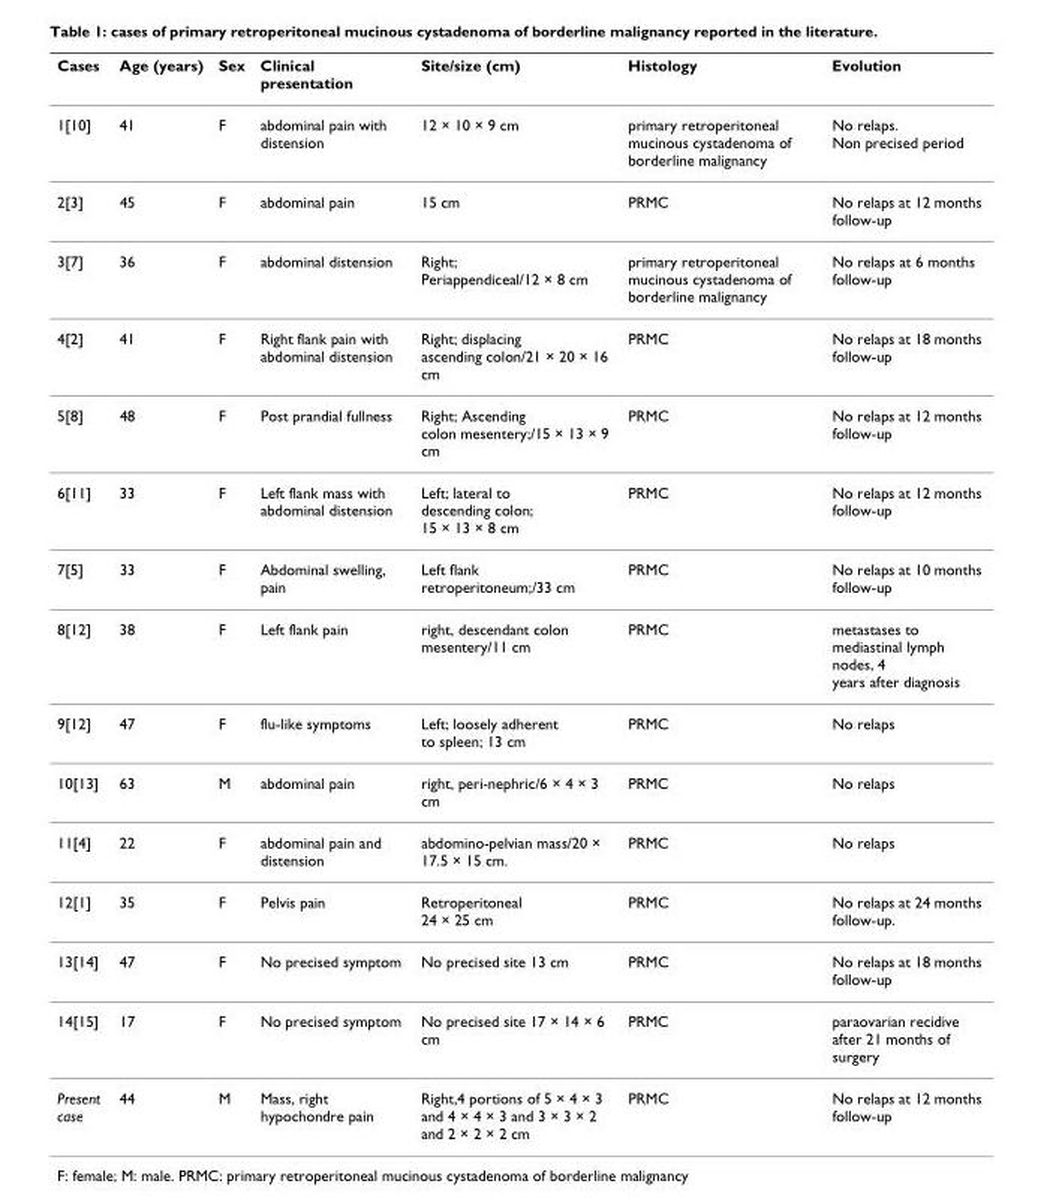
<table><thead><tr><td>Cases</td><td>Age (years)</td><td>Sex</td><td>Clinical presentation</td><td>Site/size (cm)</td><td>Histology</td><td>Evolution</td></tr></thead><tbody><tr><td>1[10]</td><td>41</td><td>F</td><td>abdominal pain with distension</td><td>12 × 10 × 9 cm</td><td>primary retroperitoneal mucinous cystadenoma of borderline malignancy</td><td>No relaps. Non precised period</td></tr><tr><td>2[3]</td><td>45</td><td>F</td><td>abdominal pain</td><td>15 cm</td><td>PRMC</td><td>No relaps at 12 months follow-up</td></tr><tr><td>3[7]</td><td>36</td><td>F</td><td>abdominal distension</td><td>Right; Periappendiceal/12 × 8 cm</td><td>primary retroperitoneal mucinous cystadenoma of borderline malignancy</td><td>No relaps at 6 months follow-up</td></tr><tr><td>4[2]</td><td>41</td><td>F</td><td>Right flank pain with abdominal distension</td><td>Right; displacing ascending colon/21 × 20 × 16 cm</td><td>PRMC</td><td>No relaps at 18 months follow-up</td></tr><tr><td>5[8]</td><td>48</td><td>F</td><td>Post prandial fullness</td><td>Right; Ascending colon mesentery;/15 × 13 × 9 cm</td><td>PRMC</td><td>No relaps at 12 months follow-up</td></tr><tr><td>6[11]</td><td>33</td><td>F</td><td>Left flank mass with abdominal distension</td><td>Left; lateral to descending colon; 15 × 13 × 8 cm</td><td>PRMC</td><td>No relaps at 12 months follow-up</td></tr><tr><td>7[5]</td><td>33</td><td>F</td><td>Abdominal swelling, pain</td><td>Left flank retroperitoneum;/33 cm</td><td>PRMC</td><td>No relaps at 10 months follow-up</td></tr><tr><td>8[12]</td><td>38</td><td>F</td><td>Left flank pain</td><td>right, descendant colon mesentery/11 cm</td><td>PRMC</td><td>metastases to mediastinal lymph nodes, 4 years after diagnosis</td></tr><tr><td>9[12]</td><td>47</td><td>F</td><td>flu-like symptoms</td><td>Left; loosely adherent to spleen; 13 cm</td><td>PRMC</td><td>No relaps</td></tr><tr><td>10[13]</td><td>63</td><td>M</td><td>abdominal pain</td><td>right, peri-nephric/6 × 4 × 3 cm</td><td>PRMC</td><td>No relaps</td></tr><tr><td>11[4]</td><td>22</td><td>F</td><td>abdominal pain and distension</td><td>abdomino-pelvian mass/20 × 17.5 × 15 cm.</td><td>PRMC</td><td>No relaps</td></tr><tr><td>12[1]</td><td>35</td><td>F</td><td>Pelvis pain</td><td>Retroperitoneal 24 × 25 cm</td><td>PRMC</td><td>No relaps at 24 months follow-up.</td></tr><tr><td>13[14]</td><td>47</td><td>F</td><td>No precised symptom</td><td>No precised site 13 cm</td><td>PRMC</td><td>No relaps at 18 months follow-up</td></tr><tr><td>14[15]</td><td>17</td><td>F</td><td>No precised symptom</td><td>No precised site 17 × 14 × 6 cm</td><td>PRMC</td><td>paraovarian recidive after 21 months of surgery</td></tr><tr><td>Present case</td><td>44</td><td>M</td><td>Mass, right hypochondre pain</td><td>Right,4 portions of 5 × 4 × 3 and 4 × 4 × 3 and 3 × 3 × 2 and 2 × 2 × 2 cm</td><td>PRMC</td><td>No relaps at 12 months follow-up</td></tr></tbody></table>